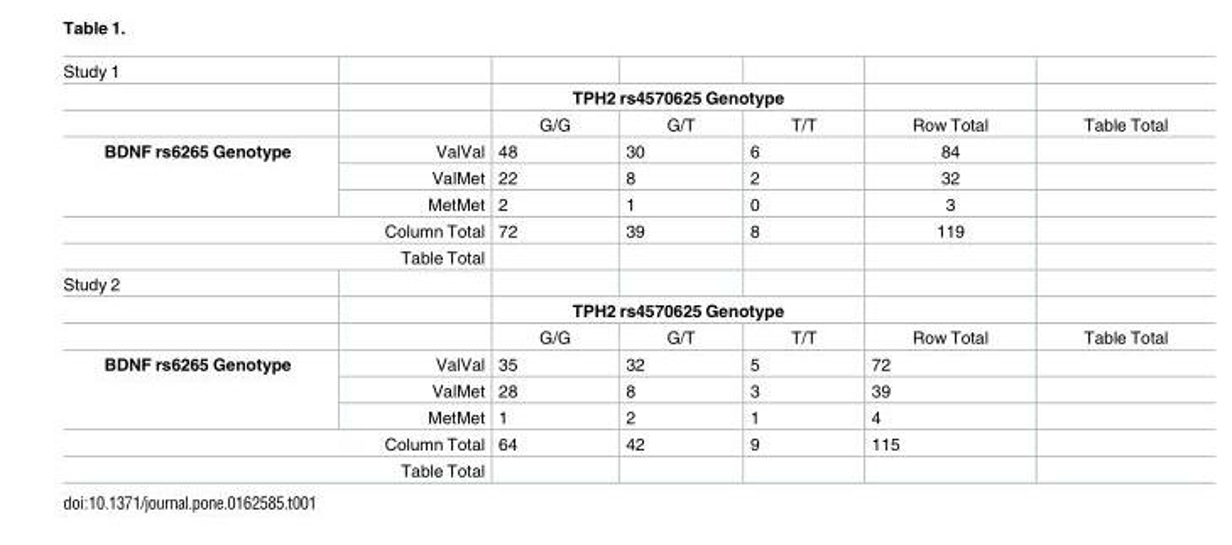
<table><tbody><tr><td colspan="7">Study 1</td></tr><tr><td></td><td></td><td colspan="3">TPH2 rs4570625 Genotype</td><td></td><td></td></tr><tr><td></td><td></td><td>G/G</td><td>G/T</td><td>T/T</td><td>Row Total</td><td>Table Total</td></tr><tr><td rowspan="3">BDNF rs6265 Genotype</td><td>ValVal</td><td>48</td><td>30</td><td>6</td><td>84</td><td></td></tr><tr><td>ValMet</td><td>22</td><td>8</td><td>2</td><td>32</td><td></td></tr><tr><td>MetMet</td><td>2</td><td>1</td><td>0</td><td>3</td><td></td></tr><tr><td colspan="2">Column Total</td><td>72</td><td>39</td><td>8</td><td>119</td><td></td></tr><tr><td colspan="7">Table Total</td></tr><tr><td colspan="7">Study 2</td></tr><tr><td></td><td></td><td colspan="3">TPH2 rs4570625 Genotype</td><td></td><td></td></tr><tr><td></td><td></td><td>G/G</td><td>G/T</td><td>T/T</td><td>Row Total</td><td>Table Total</td></tr><tr><td rowspan="3">BDNF rs6265 Genotype</td><td>ValVal</td><td>35</td><td>32</td><td>5</td><td>72</td><td></td></tr><tr><td>ValMet</td><td>28</td><td>8</td><td>3</td><td>39</td><td></td></tr><tr><td>MetMet</td><td>1</td><td>2</td><td>1</td><td>4</td><td></td></tr><tr><td colspan="2">Column Total</td><td>64</td><td>42</td><td>9</td><td>115</td><td></td></tr><tr><td colspan="2">Table Total</td><td></td><td></td><td></td><td></td><td></td></tr></tbody></table>